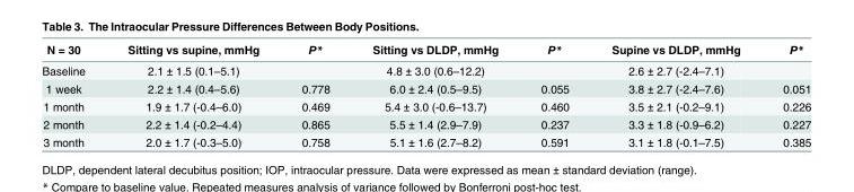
<table><thead><tr><td>N = 30</td><td>Sitting vs supine, mmHg</td><td>P*</td><td>Sitting vs DLDP, mmHg</td><td>P*</td><td>Supine vs DLDP, mmHg</td><td>P*</td></tr></thead><tbody><tr><td>Baseline</td><td>2.1 ± 1.5 (0.1–5.1)</td><td></td><td>4.8 ± 3.0 (0.6–12.2)</td><td></td><td>2.6 ± 2.7 (-2.4–7.1)</td><td></td></tr><tr><td>1 week</td><td>2.2 ± 1.4 (0.4–5.6)</td><td>0.778</td><td>6.0 ± 2.4 (0.5–9.5)</td><td>0.055</td><td>3.8 ± 2.7 (-2.4–7.6)</td><td>0.051</td></tr><tr><td>1 month</td><td>1.9 ± 1.7 (-0.4–6.0)</td><td>0.469</td><td>5.4 ± 3.0 (-0.6–13.7)</td><td>0.460</td><td>3.5 ± 2.1 (-0.2–9.1)</td><td>0.226</td></tr><tr><td>2 month</td><td>2.2 ± 1.4 (-0.2–4.4)</td><td>0.865</td><td>5.5 ± 1.4 (2.9–7.9)</td><td>0.237</td><td>3.3 ± 1.8 (-0.9–6.2)</td><td>0.227</td></tr><tr><td>3 month</td><td>2.0 ± 1.7 (-0.3–5.0)</td><td>0.758</td><td>5.1 ± 1.6 (2.7–8.2)</td><td>0.591</td><td>3.1 ± 1.8 (-0.1–7.5)</td><td>0.385</td></tr></tbody></table>